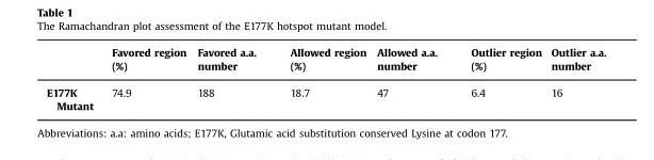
<table><thead><tr><td></td><td>Favored region (%)</td><td>Favored a.a. number</td><td>Allowed region (%)</td><td>Allowed a.a. number</td><td>Outlier region (%)</td><td>Outlier a.a. number</td></tr></thead><tbody><tr><td>E177K Mutant</td><td>74.9</td><td>188</td><td>18.7</td><td>47</td><td>6.4</td><td>16</td></tr></tbody></table>